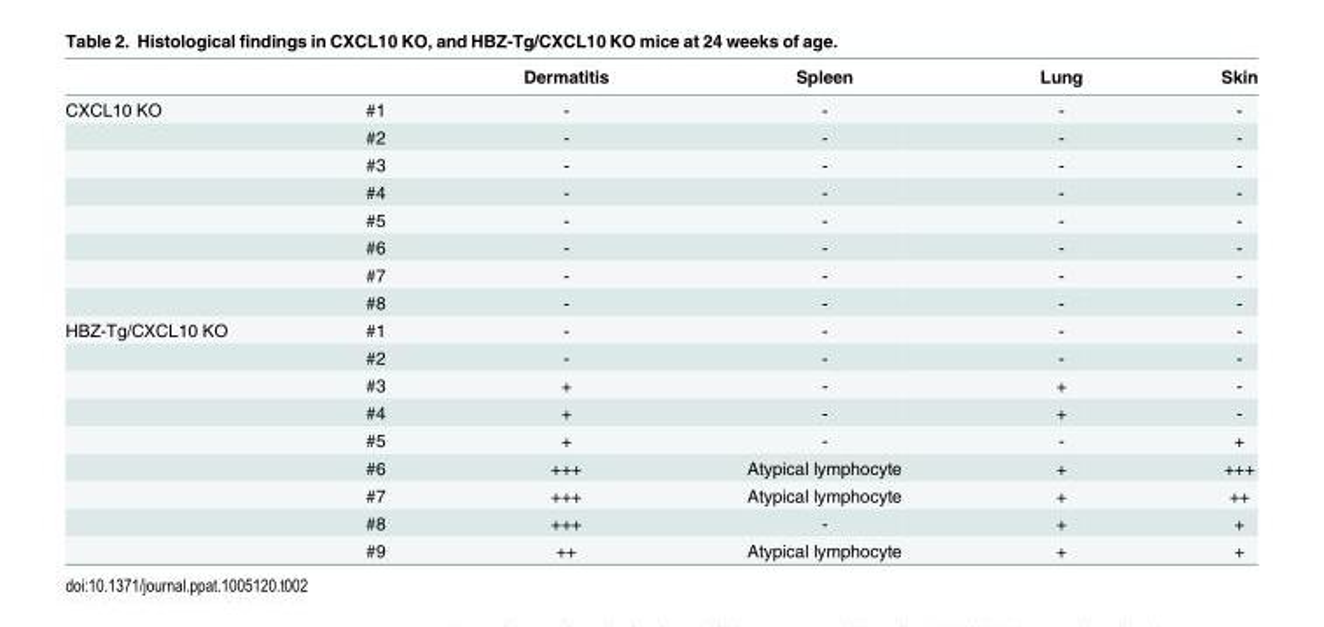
<table><thead><tr><td></td><td></td><td>Dermatitis</td><td>Spleen</td><td>Lung</td><td>Skin</td></tr></thead><tbody><tr><td rowspan="8">CXCL10 KO</td><td>#1</td><td>-</td><td>-</td><td>-</td><td>-</td></tr><tr><td>#2</td><td>-</td><td>-</td><td>-</td><td>-</td></tr><tr><td>#3</td><td>-</td><td>-</td><td>-</td><td>-</td></tr><tr><td>#4</td><td>-</td><td>-</td><td>-</td><td>-</td></tr><tr><td>#5</td><td>-</td><td>-</td><td>-</td><td>-</td></tr><tr><td>#6</td><td>-</td><td>-</td><td>-</td><td>-</td></tr><tr><td>#7</td><td>-</td><td>-</td><td>-</td><td>-</td></tr><tr><td>#8</td><td>-</td><td>-</td><td>-</td><td>-</td></tr><tr><td rowspan="9">HBZ-Tg/CXCL10 KO</td><td>#1</td><td>-</td><td>-</td><td>-</td><td>-</td></tr><tr><td>#2</td><td>-</td><td>-</td><td>-</td><td>-</td></tr><tr><td>#3</td><td>+</td><td>-</td><td>+</td><td>-</td></tr><tr><td>#4</td><td>+</td><td>-</td><td>+</td><td>-</td></tr><tr><td>#5</td><td>+</td><td>-</td><td>-</td><td>+</td></tr><tr><td>#6</td><td>+++</td><td>Atypical lymphocyte</td><td>+</td><td>+++</td></tr><tr><td>#7</td><td>+++</td><td>Atypical lymphocyte</td><td>+</td><td>++</td></tr><tr><td>#8</td><td>+++</td><td>-</td><td>+</td><td>+</td></tr><tr><td>#9</td><td>++</td><td>Atypical lymphocyte</td><td>+</td><td>+</td></tr></tbody></table>